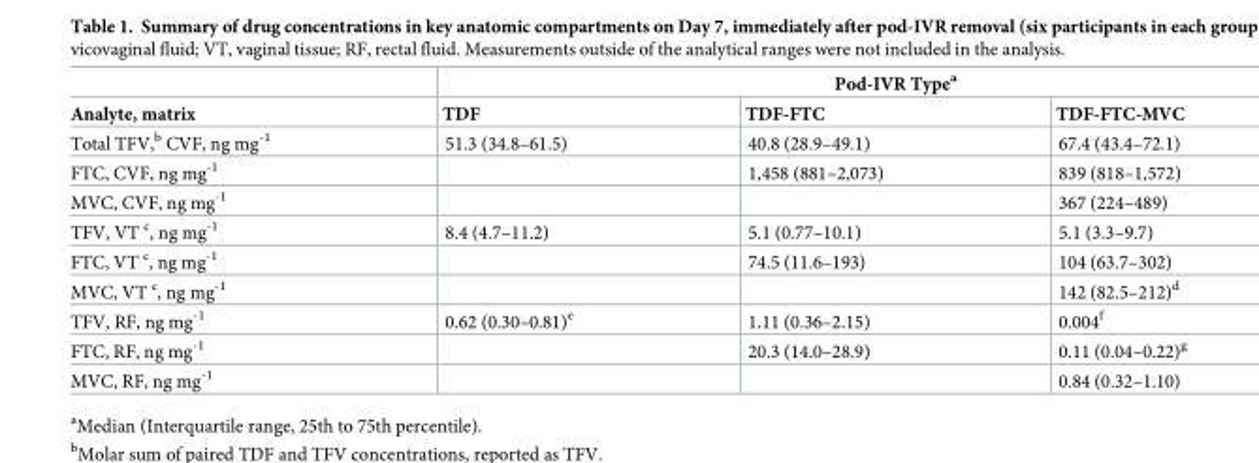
<table><thead><tr><td rowspan="2">Analyte, matrix</td><td colspan="3">Pod-IVR Type<sup>a</sup></td></tr><tr><td>TDF</td><td>TDF-FTC</td><td>TDF-FTC-MVC</td></tr></thead><tbody><tr><td>Total TFV,<sup>b</sup> CVF, ng mg<sup>-1</sup></td><td>51.3 (34.8–61.5)</td><td>40.8 (28.9–49.1)</td><td>67.4 (43.4–72.1)</td></tr><tr><td>FTC, CVF, ng mg<sup>-1</sup></td><td></td><td>1,458 (881–2,073)</td><td>839 (818–1,572)</td></tr><tr><td>MVC, CVF, ng mg<sup>-1</sup></td><td></td><td></td><td>367 (224–489)</td></tr><tr><td>TFV, VT <sup>c</sup>, ng mg<sup>-1</sup></td><td>8.4 (4.7–11.2)</td><td>5.1 (0.77–10.1)</td><td>5.1 (3.3–9.7)</td></tr><tr><td>FTC, VT <sup>c</sup>, ng mg<sup>-1</sup></td><td></td><td>74.5 (11.6–193)</td><td>104 (63.7–302)</td></tr><tr><td>MVC, VT <sup>c</sup>, ng mg<sup>-1</sup></td><td></td><td></td><td>142 (82.5–212)<sup>d</sup></td></tr><tr><td>TFV, RF, ng mg<sup>-1</sup></td><td>0.62 (0.30–0.81)<sup>e</sup></td><td>1.11 (0.36–2.15)</td><td>0.004<sup>f</sup></td></tr><tr><td>FTC, RF, ng mg<sup>-1</sup></td><td></td><td>20.3 (14.0–28.9)</td><td>0.11 (0.04–0.22)<sup>g</sup></td></tr><tr><td>MVC, RF, ng mg<sup>-1</sup></td><td></td><td></td><td>0.84 (0.32–1.10)</td></tr></tbody></table>